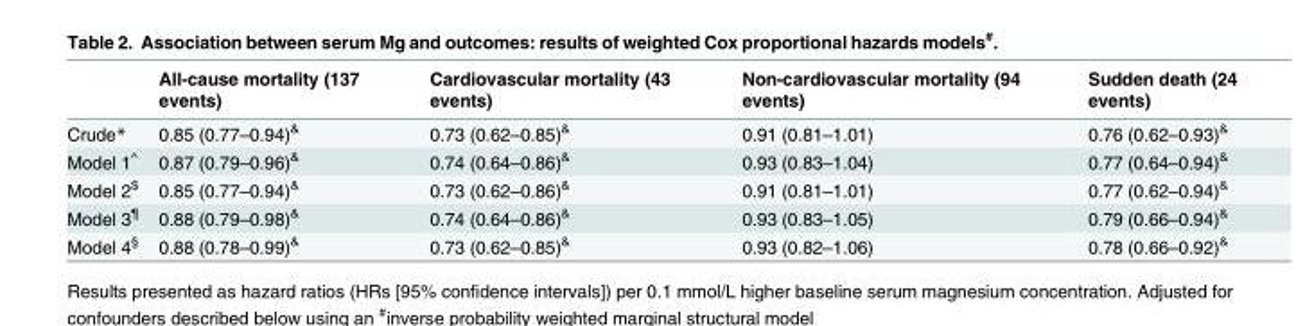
<table><thead><tr><td></td><td>All-cause mortality (137 events)</td><td>Cardiovascular mortality (43 events)</td><td>Non-cardiovascular mortality (94 events)</td><td>Sudden death (24 events)</td></tr></thead><tbody><tr><td>Crude*</td><td>0.85 (0.77–0.94)<sup>&amp;</sup></td><td>0.73 (0.62–0.85)<sup>&amp;</sup></td><td>0.91 (0.81–1.01)</td><td>0.76 (0.62–0.93)<sup>&amp;</sup></td></tr><tr><td>Model 1<sup>^</sup></td><td>0.87 (0.79–0.96)<sup>&amp;</sup></td><td>0.74 (0.64–0.86)<sup>&amp;</sup></td><td>0.93 (0.83–1.04)</td><td>0.77 (0.64–0.94)<sup>&amp;</sup></td></tr><tr><td>Model 2<sup>$</sup></td><td>0.85 (0.77–0.94)<sup>&amp;</sup></td><td>0.73 (0.62–0.86)<sup>&amp;</sup></td><td>0.91 (0.81–1.01)</td><td>0.77 (0.62–0.94)<sup>&amp;</sup></td></tr><tr><td>Model 3<sup>¶</sup></td><td>0.88 (0.79–0.98)<sup>&amp;</sup></td><td>0.74 (0.64–0.86)<sup>&amp;</sup></td><td>0.93 (0.83–1.05)</td><td>0.79 (0.66–0.94)<sup>&amp;</sup></td></tr><tr><td>Model 4<sup>§</sup></td><td>0.88 (0.78–0.99)<sup>&amp;</sup></td><td>0.73 (0.62–0.85)<sup>&amp;</sup></td><td>0.93 (0.82–1.06)</td><td>0.78 (0.66–0.92)<sup>&amp;</sup></td></tr></tbody></table>